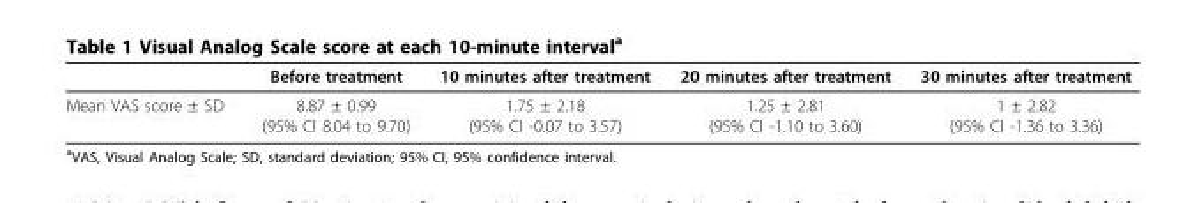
<table><thead><tr><td></td><td>Before treatment</td><td>10 minutes after treatment</td><td>20 minutes after treatment</td><td>30 minutes after treatment</td></tr></thead><tbody><tr><td>Mean VAS score ± SD</td><td>8.87 ± 0.99 (95% CI 8.04 to 9.70)</td><td>1.75 ± 2.18 (95% CI -0.07 to 3.57)</td><td>1.25 ± 2.81 (95% CI -1.10 to 3.60)</td><td>1 ± 2.82 (95% CI -1.36 to 3.36)</td></tr></tbody></table>